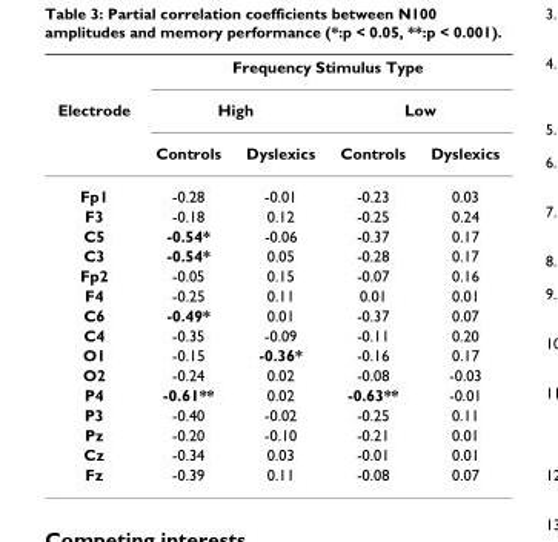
<table><thead><tr><td rowspan="3">Electrode</td><td colspan="4">Frequency Stimulus Type</td></tr><tr><td colspan="2">High</td><td colspan="2">Low</td></tr><tr><td>Controls</td><td>Dyslexics</td><td>Controls</td><td>Dyslexics</td></tr></thead><tbody><tr><td>Fp1</td><td>-0.28</td><td>-0.01</td><td>-0.23</td><td>0.03</td></tr><tr><td>F3</td><td>-0.18</td><td>0.12</td><td>-0.25</td><td>0.24</td></tr><tr><td>C5</td><td>-0.54*</td><td>-0.06</td><td>-0.37</td><td>0.17</td></tr><tr><td>C3</td><td>-0.54*</td><td>0.05</td><td>-0.28</td><td>0.17</td></tr><tr><td>Fp2</td><td>-0.05</td><td>0.15</td><td>-0.07</td><td>0.16</td></tr><tr><td>F4</td><td>-0.25</td><td>0.11</td><td>0.01</td><td>0.01</td></tr><tr><td>C6</td><td>-0.49*</td><td>0.01</td><td>-0.37</td><td>0.07</td></tr><tr><td>C4</td><td>-0.35</td><td>-0.09</td><td>-0.11</td><td>0.20</td></tr><tr><td>O1</td><td>-0.15</td><td>-0.36*</td><td>-0.16</td><td>0.17</td></tr><tr><td>O2</td><td>-0.24</td><td>0.02</td><td>-0.08</td><td>-0.03</td></tr><tr><td>P4</td><td>-0.61**</td><td>0.02</td><td>-0.63**</td><td>-0.01</td></tr><tr><td>P3</td><td>-0.40</td><td>-0.02</td><td>-0.25</td><td>0.11</td></tr><tr><td>Pz</td><td>-0.20</td><td>-0.10</td><td>-0.21</td><td>0.01</td></tr><tr><td>Cz</td><td>-0.34</td><td>0.03</td><td>-0.01</td><td>0.01</td></tr><tr><td>Fz</td><td>-0.39</td><td>0.11</td><td>-0.08</td><td>0.07</td></tr></tbody></table>